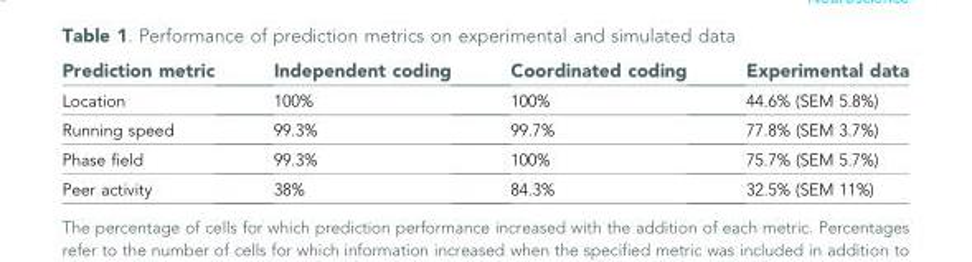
<table><thead><tr><td>Prediction metric</td><td>Independent coding</td><td>Coordinated coding</td><td>Experimental data</td></tr></thead><tbody><tr><td>Location</td><td>100%</td><td>100%</td><td>44.6% (SEM 5.8%)</td></tr><tr><td>Running speed</td><td>99.3%</td><td>99.7%</td><td>77.8% (SEM 3.7%)</td></tr><tr><td>Phase field</td><td>99.3%</td><td>100%</td><td>75.7% (SEM 5.7%)</td></tr><tr><td>Peer activity</td><td>38%</td><td>84.3%</td><td>32.5% (SEM 11%)</td></tr></tbody></table>